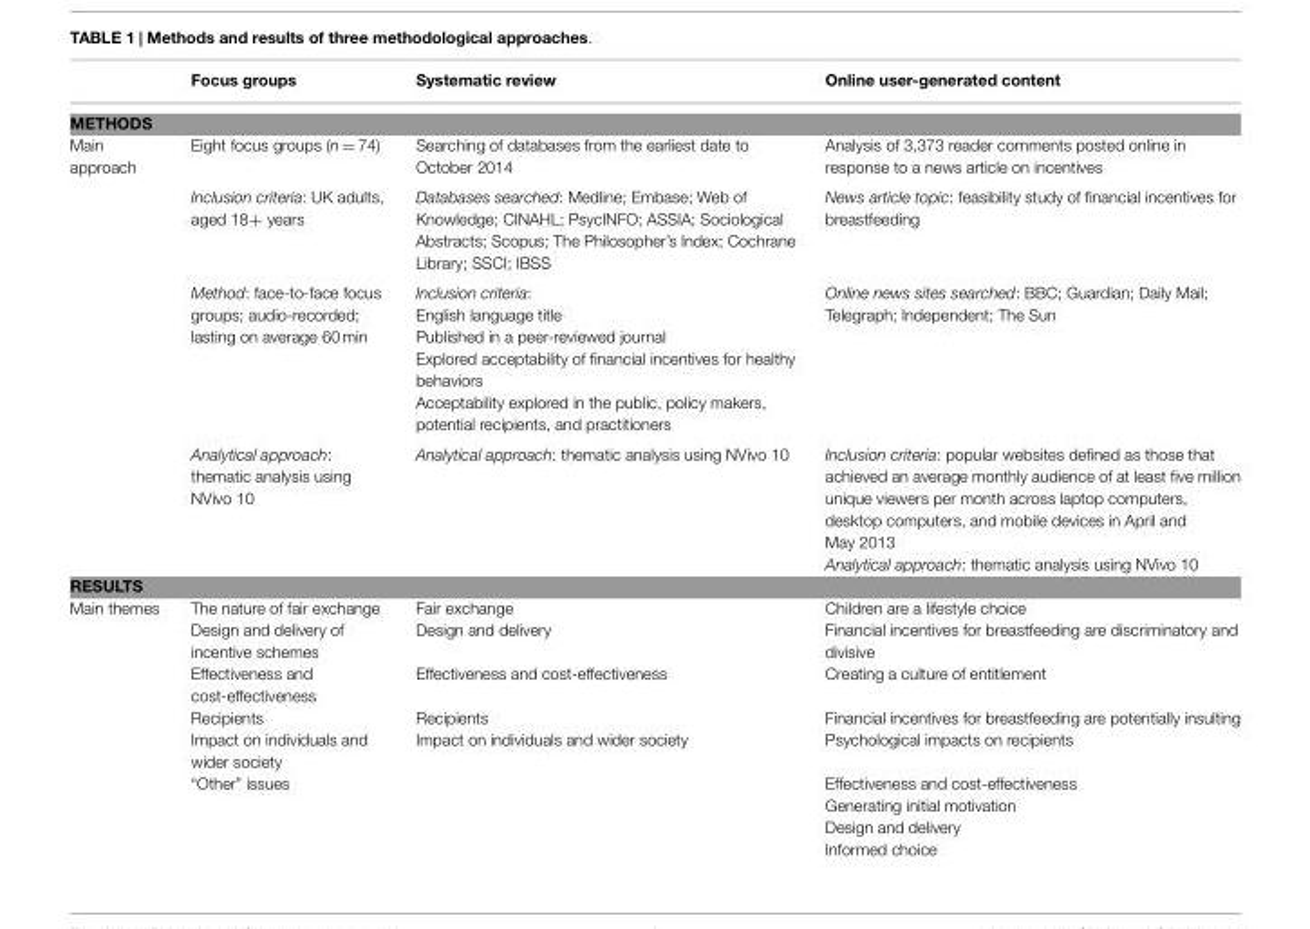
<table><thead><tr><td></td><td>Focus groups</td><td>Systematic review</td><td>Online user-generated content</td></tr></thead><tbody><tr><td colspan="4">METHODS</td></tr><tr><td rowspan="4">Main approach</td><td>Eight focus groups (n = 74)</td><td>Searching of databases from the earliest date to October 2014</td><td>Analysis of 3,373 reader comments posted online in response to a news article on incentives</td></tr><tr><td>Inclusion criteria: UK adults, aged 18+ years</td><td>Databases searched: Medline; Embase; Web of Knowledge; CINAHL; PsycINFO; ASSIA; Sociological Abstracts; Scopus; The Philosopher’s Index; Cochrane Library; SSCI; IBSS</td><td>News article topic: feasibility study of financial incentives for breastfeeding</td></tr><tr><td>Method: face-to-face focus groups; audio-recorded; lasting on average 60 min</td><td>Inclusion criteria: English language title Published in a peer-reviewed journal Explored acceptability of financial incentives for healthy behaviors Acceptability explored in the public, policy makers, potential recipients, and practitioners</td><td>Online news sites searched: BBC; Guardian; Daily Mail; Telegraph; Independent; The Sun</td></tr><tr><td>Analytical approach: thematic analysis using NVivo 10</td><td>Analytical approach: thematic analysis using NVivo 10</td><td>Inclusion criteria: popular websites defined as those that achieved an average monthly audience of at least five million unique viewers per month across laptop computers, desktop computers, and mobile devices in April and May 2013 Analytical approach: thematic analysis using NVivo 10</td></tr><tr><td colspan="4">RESULTS</td></tr><tr><td rowspan="9">Main themes</td><td>The nature of fair exchange</td><td>Fair exchange</td><td>Children are a lifestyle choice</td></tr><tr><td>Design and delivery of incentive schemes</td><td>Design and delivery</td><td>Financial incentives for breastfeeding are discriminatory and divisive</td></tr><tr><td>Effectiveness and cost-effectiveness</td><td>Effectiveness and cost-effectiveness</td><td>Creating a culture of entitlement</td></tr><tr><td>Recipients</td><td>Recipients</td><td>Financial incentives for breastfeeding are potentially insulting</td></tr><tr><td>Impact on individuals and wider society</td><td>Impact on individuals and wider society</td><td>Psychological impacts on recipients</td></tr><tr><td>“Other” issues</td><td></td><td>Effectiveness and cost-effectiveness</td></tr><tr><td></td><td></td><td>Generating initial motivation</td></tr><tr><td></td><td></td><td>Design and delivery</td></tr><tr><td></td><td></td><td>Informed choice</td></tr></tbody></table>